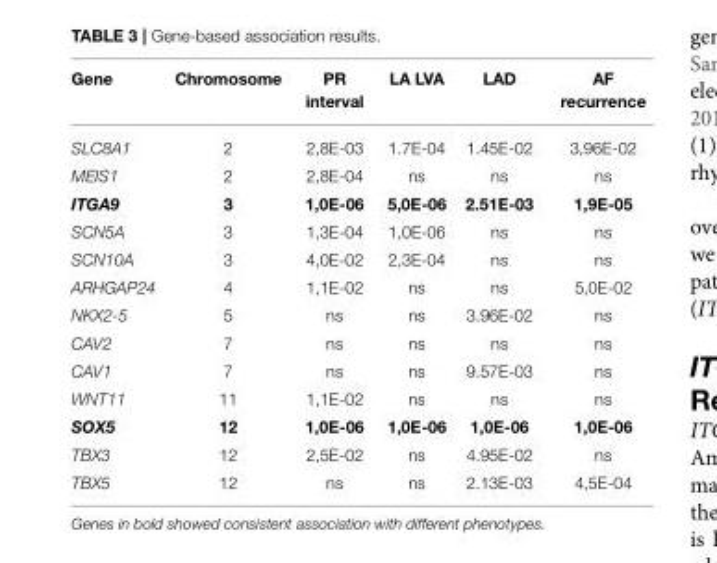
<table><thead><tr><td>Gene</td><td>Chromosome</td><td>PR interval</td><td>LA LVA</td><td>LAD</td><td>AF recurrence</td></tr></thead><tbody><tr><td>SLC8A1</td><td>2</td><td>2,8E-03</td><td>1.7E-04</td><td>1.45E-02</td><td>3,96E-02</td></tr><tr><td>MEIS1</td><td>2</td><td>2,8E-04</td><td>ns</td><td>ns</td><td>ns</td></tr><tr><td>ITGA9</td><td>3</td><td>1,0E-06</td><td>5,0E-06</td><td>2.51E-03</td><td>1,9E-05</td></tr><tr><td>SCN5A</td><td>3</td><td>1,3E-04</td><td>1,0E-06</td><td>ns</td><td>ns</td></tr><tr><td>SCN10A</td><td>3</td><td>4,0E-02</td><td>2,3E-04</td><td>ns</td><td>ns</td></tr><tr><td>ARHGAP24</td><td>4</td><td>1,1E-02</td><td>ns</td><td>ns</td><td>5,0E-02</td></tr><tr><td>NKX2-5</td><td>5</td><td>ns</td><td>ns</td><td>3.96E-02</td><td>ns</td></tr><tr><td>CAV2</td><td>7</td><td>ns</td><td>ns</td><td>ns</td><td>ns</td></tr><tr><td>CAV1</td><td>7</td><td>ns</td><td>ns</td><td>9.57E-03</td><td>ns</td></tr><tr><td>WNT11</td><td>11</td><td>1,1E-02</td><td>ns</td><td>ns</td><td>ns</td></tr><tr><td>SOX5</td><td>12</td><td>1,0E-06</td><td>1,0E-06</td><td>1,0E-06</td><td>1,0E-06</td></tr><tr><td>TBX3</td><td>12</td><td>2,5E-02</td><td>ns</td><td>4.95E-02</td><td>ns</td></tr><tr><td>TBX5</td><td>12</td><td>ns</td><td>ns</td><td>2.13E-03</td><td>4,5E-04</td></tr></tbody></table>